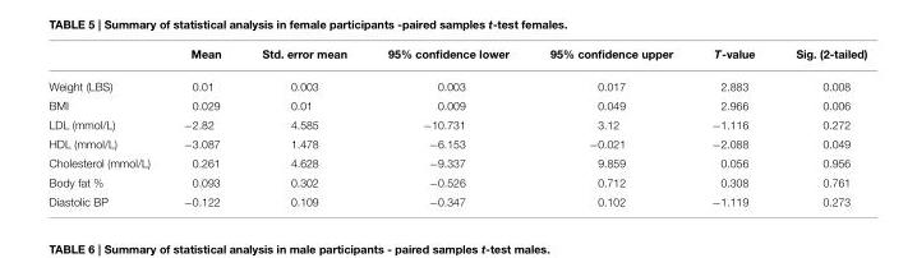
<table><thead><tr><td></td><td>Mean</td><td>Std. error mean</td><td>95% confidence lower</td><td>95% confidence upper</td><td>T-value</td><td>Sig. (2-tailed)</td></tr></thead><tbody><tr><td>Weight (LBS)</td><td>0.01</td><td>0.003</td><td>0.003</td><td>0.017</td><td>2.883</td><td>0.008</td></tr><tr><td>BMI</td><td>0.029</td><td>0.01</td><td>0.009</td><td>0.049</td><td>2.966</td><td>0.006</td></tr><tr><td>LDL (mmol/L)</td><td>−2.82</td><td>4.585</td><td>−10.731</td><td>3.12</td><td>−1.116</td><td>0.272</td></tr><tr><td>HDL (mmol/L)</td><td>−3.087</td><td>1.478</td><td>−6.153</td><td>−0.021</td><td>−2.088</td><td>0.049</td></tr><tr><td>Cholesterol (mmol/L)</td><td>0.261</td><td>4.628</td><td>−9.337</td><td>9.859</td><td>0.056</td><td>0.956</td></tr><tr><td>Body fat %</td><td>0.093</td><td>0.302</td><td>−0.526</td><td>0.712</td><td>0.308</td><td>0.761</td></tr><tr><td>Diastolic BP</td><td>−0.122</td><td>0.109</td><td>−0.347</td><td>0.102</td><td>−1.119</td><td>0.273</td></tr></tbody></table>